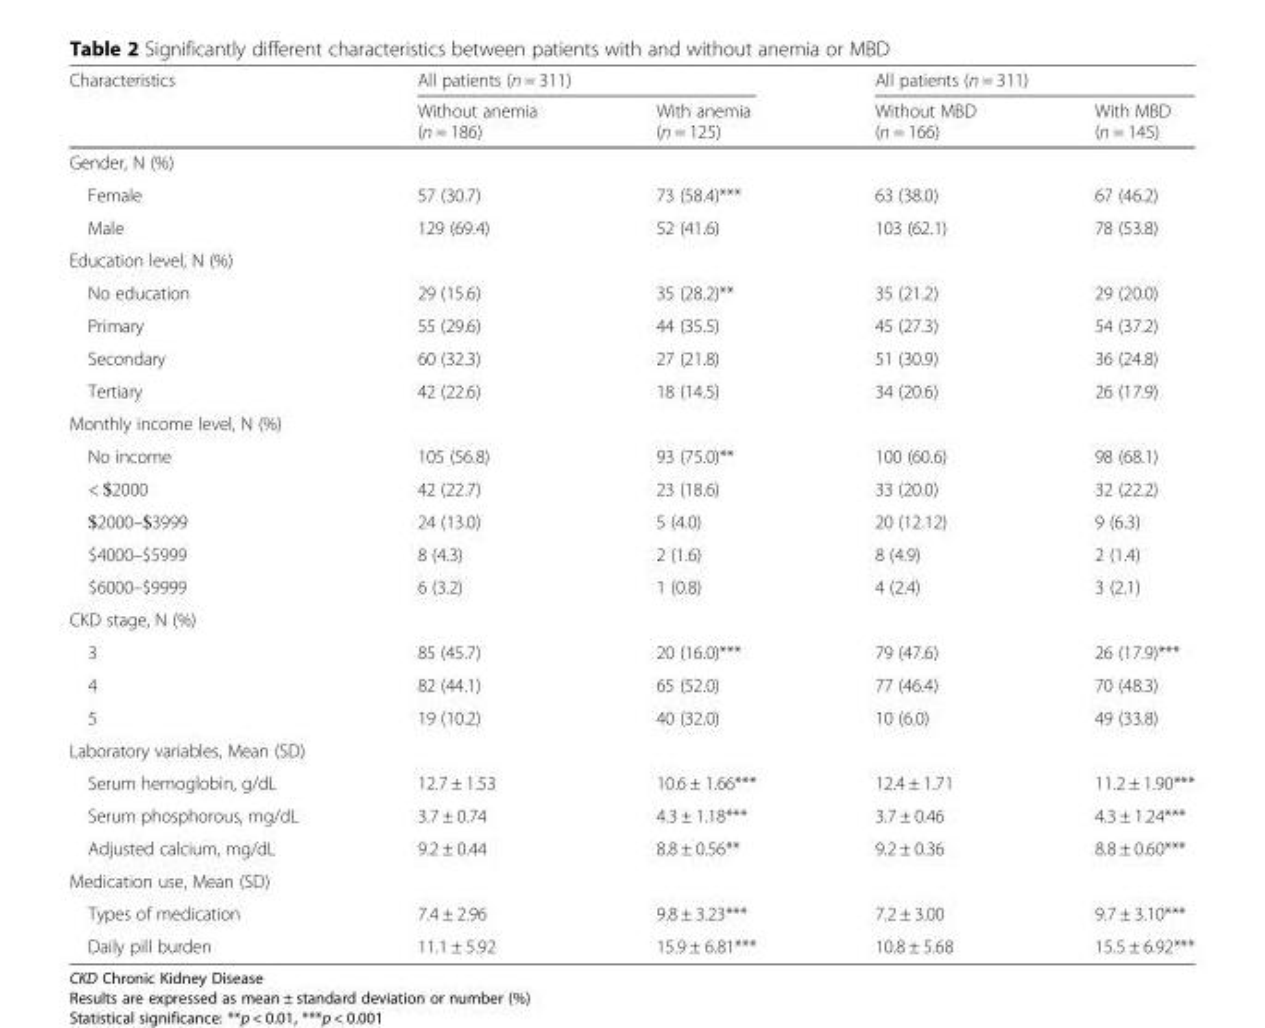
<table><thead><tr><td rowspan="2">Characteristics</td><td colspan="2">All patients (n = 311)</td><td colspan="2">All patients (n = 311)</td></tr><tr><td>Without anemia (n = 186)</td><td>With anemia (n = 125)</td><td>Without MBD (n = 166)</td><td>With MBD (n = 145)</td></tr></thead><tbody><tr><td colspan="5">Gender, N (%)</td></tr><tr><td>Female</td><td>57 (30.7)</td><td>73 (58.4)***</td><td>63 (38.0)</td><td>67 (46.2)</td></tr><tr><td>Male</td><td>129 (69.4)</td><td>52 (41.6)</td><td>103 (62.1)</td><td>78 (53.8)</td></tr><tr><td colspan="5">Education level, N (%)</td></tr><tr><td>No education</td><td>29 (15.6)</td><td>35 (28.2)**</td><td>35 (21.2)</td><td>29 (20.0)</td></tr><tr><td>Primary</td><td>55 (29.6)</td><td>44 (35.5)</td><td>45 (27.3)</td><td>54 (37.2)</td></tr><tr><td>Secondary</td><td>60 (32.3)</td><td>27 (21.8)</td><td>51 (30.9)</td><td>36 (24.8)</td></tr><tr><td>Tertiary</td><td>42 (22.6)</td><td>18 (14.5)</td><td>34 (20.6)</td><td>26 (17.9)</td></tr><tr><td colspan="5">Monthly income level, N (%)</td></tr><tr><td>No income</td><td>105 (56.8)</td><td>93 (75.0)**</td><td>100 (60.6)</td><td>98 (68.1)</td></tr><tr><td>&lt; $2000</td><td>42 (22.7)</td><td>23 (18.6)</td><td>33 (20.0)</td><td>32 (22.2)</td></tr><tr><td>$2000–$3999</td><td>24 (13.0)</td><td>5 (4.0)</td><td>20 (12.12)</td><td>9 (6.3)</td></tr><tr><td>$4000–$5999</td><td>8 (4.3)</td><td>2 (1.6)</td><td>8 (4.9)</td><td>2 (1.4)</td></tr><tr><td>$6000–$9999</td><td>6 (3.2)</td><td>1 (0.8)</td><td>4 (2.4)</td><td>3 (2.1)</td></tr><tr><td colspan="5">CKD stage, N (%)</td></tr><tr><td>3</td><td>85 (45.7)</td><td>20 (16.0)***</td><td>79 (47.6)</td><td>26 (17.9)***</td></tr><tr><td>4</td><td>82 (44.1)</td><td>65 (52.0)</td><td>77 (46.4)</td><td>70 (48.3)</td></tr><tr><td>5</td><td>19 (10.2)</td><td>40 (32.0)</td><td>10 (6.0)</td><td>49 (33.8)</td></tr><tr><td colspan="5">Laboratory variables, Mean (SD)</td></tr><tr><td>Serum hemoglobin, g/dL</td><td>12.7 ± 1.53</td><td>10.6 ± 1.66***</td><td>12.4 ± 1.71</td><td>11.2 ± 1.90***</td></tr><tr><td>Serum phosphorous, mg/dL</td><td>3.7 ± 0.74</td><td>4.3 ± 1.18***</td><td>3.7 ± 0.46</td><td>4.3 ± 1.24***</td></tr><tr><td>Adjusted calcium, mg/dL</td><td>9.2 ± 0.44</td><td>8.8 ± 0.56**</td><td>9.2 ± 0.36</td><td>8.8 ± 0.60***</td></tr><tr><td colspan="5">Medication use, Mean (SD)</td></tr><tr><td>Types of medication</td><td>7.4 ± 2.96</td><td>9.8 ± 3.23***</td><td>7.2 ± 3.00</td><td>9.7 ± 3.10***</td></tr><tr><td>Daily pill burden</td><td>11.1 ± 5.92</td><td>15.9 ± 6.81***</td><td>10.8 ± 5.68</td><td>15.5 ± 6.92***</td></tr></tbody></table>